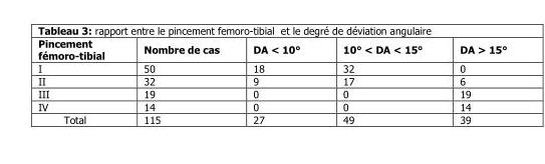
<table><thead><tr><td>Pincement fémoro-tibial</td><td>Nombre de cas</td><td>DA &lt; 10°</td><td>10° &lt; DA &lt; 15°</td><td>DA &gt; 15°</td></tr></thead><tbody><tr><td>I</td><td>50</td><td>18</td><td>32</td><td>0</td></tr><tr><td>II</td><td>32</td><td>9</td><td>17</td><td>6</td></tr><tr><td>III</td><td>19</td><td>0</td><td>0</td><td>19</td></tr><tr><td>IV</td><td>14</td><td>0</td><td>0</td><td>14</td></tr><tr><td>Total</td><td>115</td><td>27</td><td>49</td><td>39</td></tr></tbody></table>